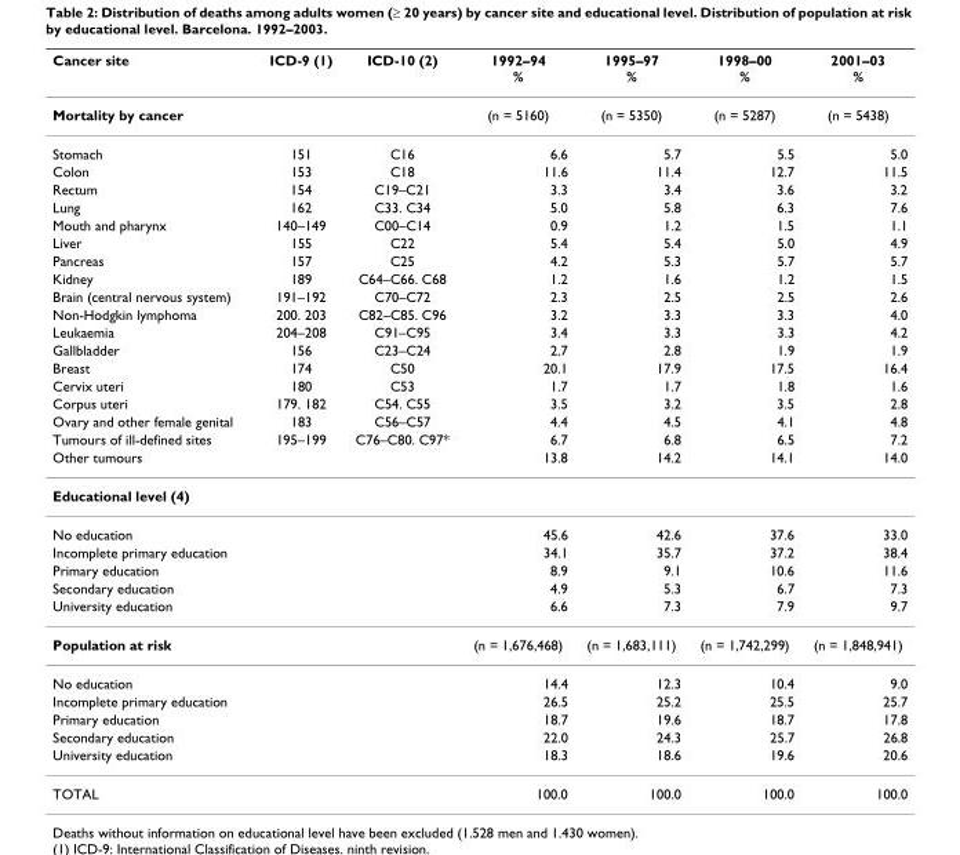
<table><thead><tr><td>Cancer site</td><td>ICD-9 (1)</td><td>ICD-10 (2)</td><td>1992–94 %</td><td>1995–97 %</td><td>1998–00 %</td><td>2001–03 %</td></tr></thead><tbody><tr><td>Mortality by cancer</td><td></td><td></td><td>(n = 5160)</td><td>(n = 5350)</td><td>(n = 5287)</td><td>(n = 5438)</td></tr><tr><td>Stomach</td><td>151</td><td>C16</td><td>6.6</td><td>5.7</td><td>5.5</td><td>5.0</td></tr><tr><td>Colon</td><td>153</td><td>C18</td><td>11.6</td><td>11.4</td><td>12.7</td><td>11.5</td></tr><tr><td>Rectum</td><td>154</td><td>C19–C21</td><td>3.3</td><td>3.4</td><td>3.6</td><td>3.2</td></tr><tr><td>Lung</td><td>162</td><td>C33. C34</td><td>5.0</td><td>5.8</td><td>6.3</td><td>7.6</td></tr><tr><td>Mouth and pharynx</td><td>140–149</td><td>C00–C14</td><td>0.9</td><td>1.2</td><td>1.5</td><td>1.1</td></tr><tr><td>Liver</td><td>155</td><td>C22</td><td>5.4</td><td>5.4</td><td>5.0</td><td>4.9</td></tr><tr><td>Pancreas</td><td>157</td><td>C25</td><td>4.2</td><td>5.3</td><td>5.7</td><td>5.7</td></tr><tr><td>Kidney</td><td>189</td><td>C64–C66. C68</td><td>1.2</td><td>1.6</td><td>1.2</td><td>1.5</td></tr><tr><td>Brain (central nervous system)</td><td>191–192</td><td>C70–C72</td><td>2.3</td><td>2.5</td><td>2.5</td><td>2.6</td></tr><tr><td>Non-Hodgkin lymphoma</td><td>200. 203</td><td>C82–C85. C96</td><td>3.2</td><td>3.3</td><td>3.3</td><td>4.0</td></tr><tr><td>Leukaemia</td><td>204–208</td><td>C91–C95</td><td>3.4</td><td>3.3</td><td>3.3</td><td>4.2</td></tr><tr><td>Gallbladder</td><td>156</td><td>C23–C24</td><td>2.7</td><td>2.8</td><td>1.9</td><td>1.9</td></tr><tr><td>Breast</td><td>174</td><td>C50</td><td>20.1</td><td>17.9</td><td>17.5</td><td>16.4</td></tr><tr><td>Cervix uteri</td><td>180</td><td>C53</td><td>1.7</td><td>1.7</td><td>1.8</td><td>1.6</td></tr><tr><td>Corpus uteri</td><td>179. 182</td><td>C54. C55</td><td>3.5</td><td>3.2</td><td>3.5</td><td>2.8</td></tr><tr><td>Ovary and other female genital</td><td>183</td><td>C56–C57</td><td>4.4</td><td>4.5</td><td>4.1</td><td>4.8</td></tr><tr><td>Tumours of ill-defined sites</td><td>195–199</td><td>C76–C80. C97*</td><td>6.7</td><td>6.8</td><td>6.5</td><td>7.2</td></tr><tr><td>Other tumours</td><td></td><td></td><td>13.8</td><td>14.2</td><td>14.1</td><td>14.0</td></tr><tr><td colspan="7">Educational level (4)</td></tr><tr><td>No education</td><td></td><td></td><td>45.6</td><td>42.6</td><td>37.6</td><td>33.0</td></tr><tr><td>Incomplete primary education</td><td></td><td></td><td>34.1</td><td>35.7</td><td>37.2</td><td>38.4</td></tr><tr><td>Primary education</td><td></td><td></td><td>8.9</td><td>9.1</td><td>10.6</td><td>11.6</td></tr><tr><td>Secondary education</td><td></td><td></td><td>4.9</td><td>5.3</td><td>6.7</td><td>7.3</td></tr><tr><td>University education</td><td></td><td></td><td>6.6</td><td>7.3</td><td>7.9</td><td>9.7</td></tr><tr><td>Population at risk</td><td></td><td></td><td>(n = 1,676,468)</td><td>(n = 1,683,111)</td><td>(n = 1,742,299)</td><td>(n = 1,848,941)</td></tr><tr><td>No education</td><td></td><td></td><td>14.4</td><td>12.3</td><td>10.4</td><td>9.0</td></tr><tr><td>Incomplete primary education</td><td></td><td></td><td>26.5</td><td>25.2</td><td>25.5</td><td>25.7</td></tr><tr><td>Primary education</td><td></td><td></td><td>18.7</td><td>19.6</td><td>18.7</td><td>17.8</td></tr><tr><td>Secondary education</td><td></td><td></td><td>22.0</td><td>24.3</td><td>25.7</td><td>26.8</td></tr><tr><td>University education</td><td></td><td></td><td>18.3</td><td>18.6</td><td>19.6</td><td>20.6</td></tr><tr><td>TOTAL</td><td></td><td></td><td>100.0</td><td>100.0</td><td>100.0</td><td>100.0</td></tr></tbody></table>